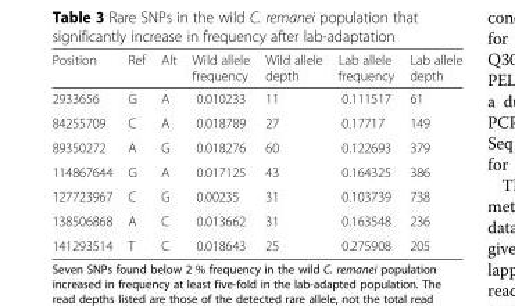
<table><thead><tr><td>Position</td><td>Ref</td><td>Alt</td><td>Wild allele frequency</td><td>Wild allele depth</td><td>Lab allele frequency</td><td>Lab allele depth</td></tr></thead><tbody><tr><td>2933656</td><td>G</td><td>A</td><td>0.010233</td><td>11</td><td>0.111517</td><td>61</td></tr><tr><td>84255709</td><td>C</td><td>A</td><td>0.018789</td><td>27</td><td>0.17717</td><td>149</td></tr><tr><td>89350272</td><td>A</td><td>G</td><td>0.018276</td><td>60</td><td>0.122693</td><td>379</td></tr><tr><td>114867644</td><td>G</td><td>A</td><td>0.017125</td><td>43</td><td>0.164325</td><td>386</td></tr><tr><td>127723967</td><td>C</td><td>G</td><td>0.00235</td><td>31</td><td>0.103739</td><td>738</td></tr><tr><td>138506868</td><td>A</td><td>C</td><td>0.013662</td><td>31</td><td>0.163548</td><td>236</td></tr><tr><td>141293514</td><td>T</td><td>C</td><td>0.018643</td><td>25</td><td>0.275908</td><td>205</td></tr></tbody></table>